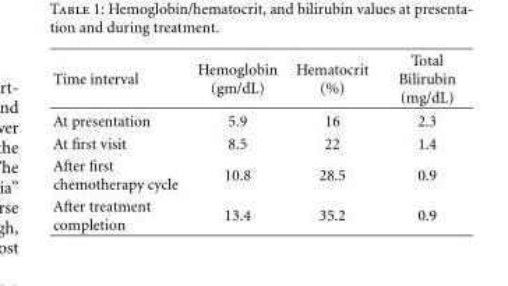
<table><thead><tr><td>Time interval</td><td>Hemoglobin (gm/dL)</td><td>Hematocrit (%)</td><td>Total Bilirubin (mg/dL)</td></tr></thead><tbody><tr><td>At presentation</td><td>5.9</td><td>16</td><td>2.3</td></tr><tr><td>At first visit</td><td>8.5</td><td>22</td><td>1.4</td></tr><tr><td>After first chemotherapy cycle</td><td>10.8</td><td>28.5</td><td>0.9</td></tr><tr><td>After treatment completion</td><td>13.4</td><td>35.2</td><td>0.9</td></tr></tbody></table>